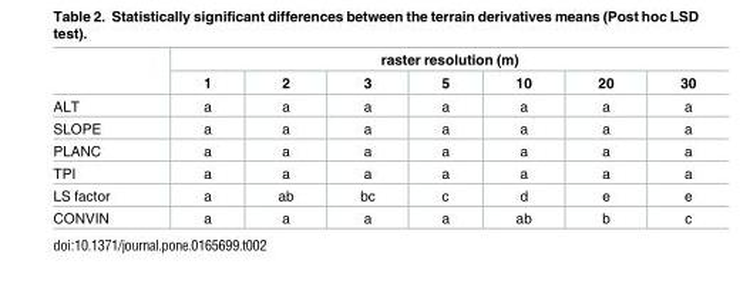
<table><thead><tr><td rowspan="2"></td><td colspan="7">raster resolution (m)</td></tr><tr><td>1</td><td>2</td><td>3</td><td>5</td><td>10</td><td>20</td><td>30</td></tr></thead><tbody><tr><td>ALT</td><td>a</td><td>a</td><td>a</td><td>a</td><td>a</td><td>a</td><td>a</td></tr><tr><td>SLOPE</td><td>a</td><td>a</td><td>a</td><td>a</td><td>a</td><td>a</td><td>a</td></tr><tr><td>PLANC</td><td>a</td><td>a</td><td>a</td><td>a</td><td>a</td><td>a</td><td>a</td></tr><tr><td>TPI</td><td>a</td><td>a</td><td>a</td><td>a</td><td>a</td><td>a</td><td>a</td></tr><tr><td>LS factor</td><td>a</td><td>ab</td><td>bc</td><td>c</td><td>d</td><td>e</td><td>e</td></tr><tr><td>CONVIN</td><td>a</td><td>a</td><td>a</td><td>a</td><td>ab</td><td>b</td><td>c</td></tr></tbody></table>